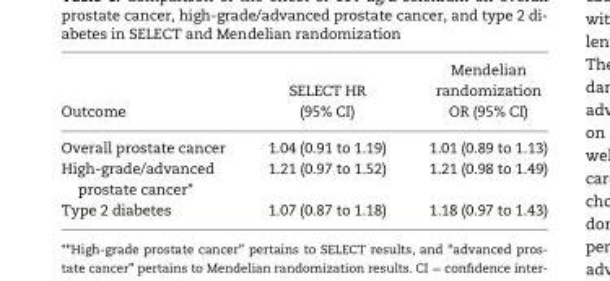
<table><thead><tr><td>Outcome</td><td>SELECT HR (95% CI)</td><td>Mendelian randomization OR (95% CI)</td></tr></thead><tbody><tr><td>Overall prostate cancer</td><td>1.04 (0.91 to 1.19)</td><td>1.01 (0.89 to 1.13)</td></tr><tr><td>High-grade/advanced prostate cancer*</td><td>1.21 (0.97 to 1.52)</td><td>1.21 (0.98 to 1.49)</td></tr><tr><td>Type 2 diabetes</td><td>1.07 (0.87 to 1.18)</td><td>1.18 (0.97 to 1.43)</td></tr></tbody></table>